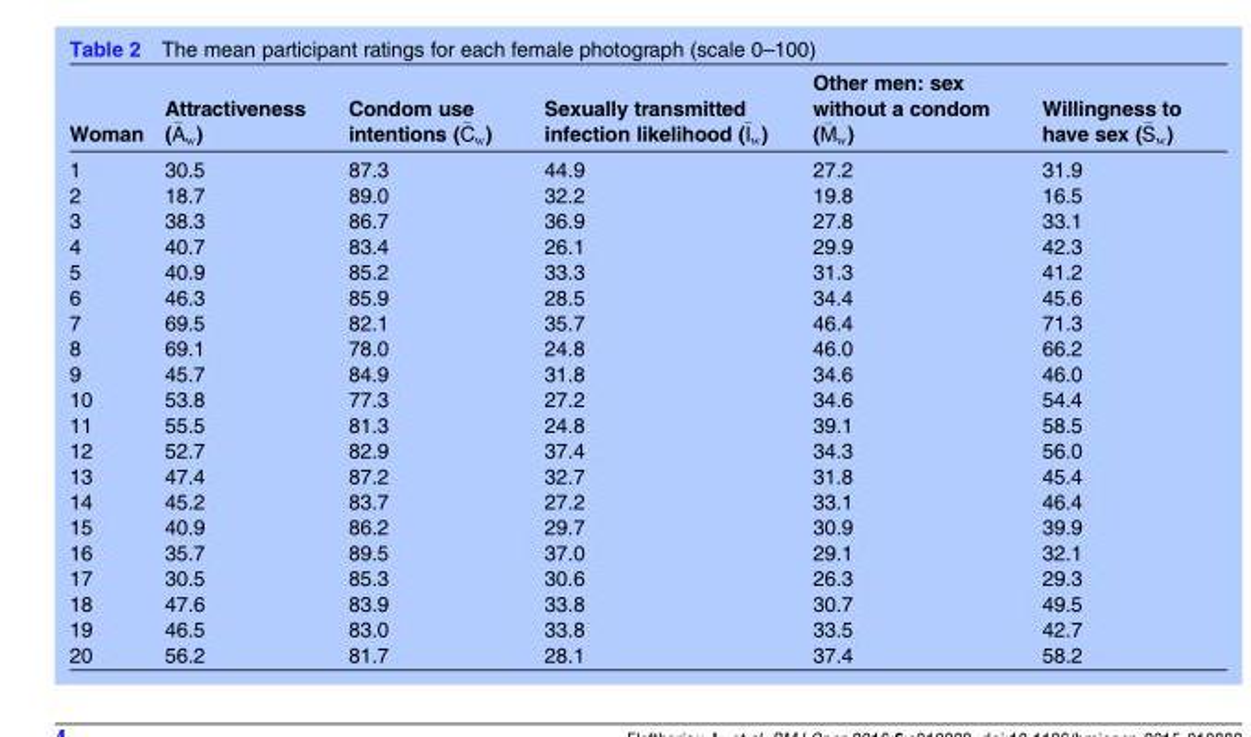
<table><thead><tr><td>Woman</td><td>Attractiveness (�Aw)</td><td>Condom use intentions (�Cw)</td><td>Sexually transmitted infection likelihood (�Iw)</td><td>Other men: sex without a condom ( �Mw)</td><td>Willingness to have sex (�Sw)</td></tr></thead><tbody><tr><td>1</td><td>30.5</td><td>87.3</td><td>44.9</td><td>27.2</td><td>31.9</td></tr><tr><td>2</td><td>18.7</td><td>89.0</td><td>32.2</td><td>19.8</td><td>16.5</td></tr><tr><td>3</td><td>38.3</td><td>86.7</td><td>36.9</td><td>27.8</td><td>33.1</td></tr><tr><td>4</td><td>40.7</td><td>83.4</td><td>26.1</td><td>29.9</td><td>42.3</td></tr><tr><td>5</td><td>40.9</td><td>85.2</td><td>33.3</td><td>31.3</td><td>41.2</td></tr><tr><td>6</td><td>46.3</td><td>85.9</td><td>28.5</td><td>34.4</td><td>45.6</td></tr><tr><td>7</td><td>69.5</td><td>82.1</td><td>35.7</td><td>46.4</td><td>71.3</td></tr><tr><td>8</td><td>69.1</td><td>78.0</td><td>24.8</td><td>46.0</td><td>66.2</td></tr><tr><td>9</td><td>45.7</td><td>84.9</td><td>31.8</td><td>34.6</td><td>46.0</td></tr><tr><td>10</td><td>53.8</td><td>77.3</td><td>27.2</td><td>34.6</td><td>54.4</td></tr><tr><td>11</td><td>55.5</td><td>81.3</td><td>24.8</td><td>39.1</td><td>58.5</td></tr><tr><td>12</td><td>52.7</td><td>82.9</td><td>37.4</td><td>34.3</td><td>56.0</td></tr><tr><td>13</td><td>47.4</td><td>87.2</td><td>32.7</td><td>31.8</td><td>45.4</td></tr><tr><td>14</td><td>45.2</td><td>83.7</td><td>27.2</td><td>33.1</td><td>46.4</td></tr><tr><td>15</td><td>40.9</td><td>86.2</td><td>29.7</td><td>30.9</td><td>39.9</td></tr><tr><td>16</td><td>35.7</td><td>89.5</td><td>37.0</td><td>29.1</td><td>32.1</td></tr><tr><td>17</td><td>30.5</td><td>85.3</td><td>30.6</td><td>26.3</td><td>29.3</td></tr><tr><td>18</td><td>47.6</td><td>83.9</td><td>33.8</td><td>30.7</td><td>49.5</td></tr><tr><td>19</td><td>46.5</td><td>83.0</td><td>33.8</td><td>33.5</td><td>42.7</td></tr><tr><td>20</td><td>56.2</td><td>81.7</td><td>28.1</td><td>37.4</td><td>58.2</td></tr></tbody></table>